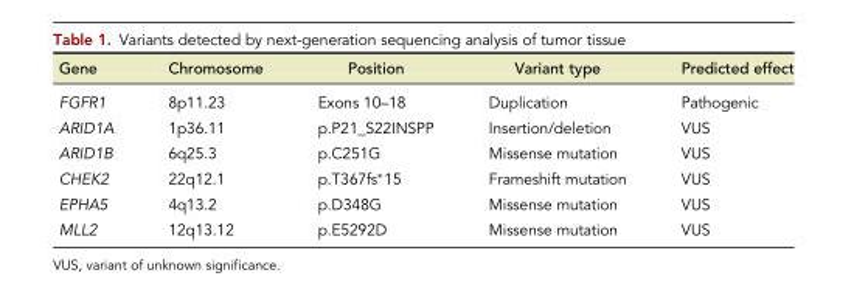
<table><thead><tr><td>Gene</td><td>Chromosome</td><td>Position</td><td>Variant type</td><td>Predicted effect</td></tr></thead><tbody><tr><td>FGFR1</td><td>8p11.23</td><td>Exons 10–18</td><td>Duplication</td><td>Pathogenic</td></tr><tr><td>ARID1A</td><td>1p36.11</td><td>p.P21_S22INSPP</td><td>Insertion/deletion</td><td>VUS</td></tr><tr><td>ARID1B</td><td>6q25.3</td><td>p.C251G</td><td>Missense mutation</td><td>VUS</td></tr><tr><td>CHEK2</td><td>22q12.1</td><td>p.T367fs∗15</td><td>Frameshift mutation</td><td>VUS</td></tr><tr><td>EPHA5</td><td>4q13.2</td><td>p.D348G</td><td>Missense mutation</td><td>VUS</td></tr><tr><td>MLL2</td><td>12q13.12</td><td>p.E5292D</td><td>Missense mutation</td><td>VUS</td></tr></tbody></table>